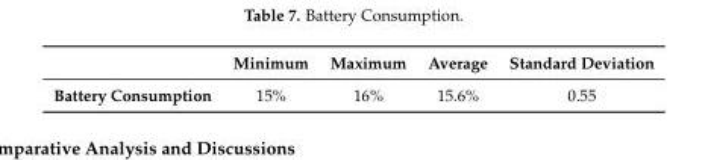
<table><thead><tr><td></td><td>Minimum</td><td>Maximum</td><td>Average</td><td>Standard Deviation</td></tr></thead><tbody><tr><td>Battery Consumption</td><td>15%</td><td>16%</td><td>15.6%</td><td>0.55</td></tr></tbody></table>